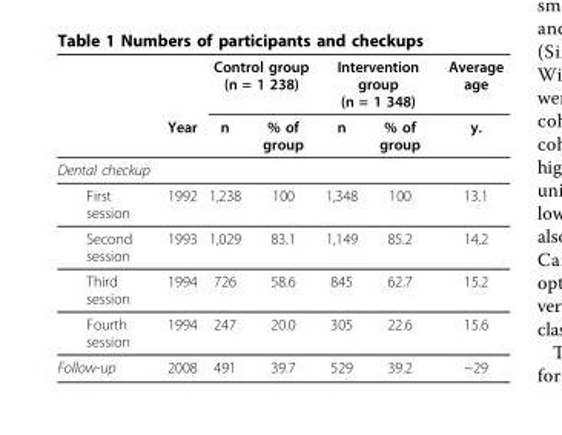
<table><thead><tr><td rowspan="2"></td><td rowspan="2">Year</td><td colspan="2">Control group (n = 1 238)</td><td colspan="2">Intervention group (n = 1 348)</td><td rowspan="2">Average age y.</td></tr><tr><td>n</td><td>% of group</td><td>n</td><td>% of group</td></tr></thead><tbody><tr><td colspan="7">Dental checkup</td></tr><tr><td>First session</td><td>1992</td><td>1,238</td><td>100</td><td>1,348</td><td>100</td><td>13.1</td></tr><tr><td>Second session</td><td>1993</td><td>1,029</td><td>83.1</td><td>1,149</td><td>85.2</td><td>14.2</td></tr><tr><td>Third session</td><td>1994</td><td>726</td><td>58.6</td><td>845</td><td>62.7</td><td>15.2</td></tr><tr><td>Fourth session</td><td>1994</td><td>247</td><td>20.0</td><td>305</td><td>22.6</td><td>15.6</td></tr><tr><td>Follow-up</td><td>2008</td><td>491</td><td>39.7</td><td>529</td><td>39.2</td><td>~29</td></tr></tbody></table>